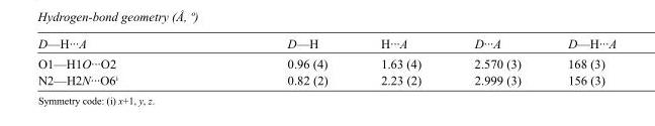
<table><tbody><tr><td>D—H···A</td><td>D—H</td><td>H···A</td><td>D···A</td><td>D—H···A</td></tr><tr><td>O1—H1O···O2</td><td>0.96 (4)</td><td>1.63 (4)</td><td>2.570 (3)</td><td>168 (3)</td></tr><tr><td>N2—H2N···O6<sup>i</sup></td><td>0.82 (2)</td><td>2.23 (2)</td><td>2.999 (3)</td><td>156 (3)</td></tr></tbody></table>